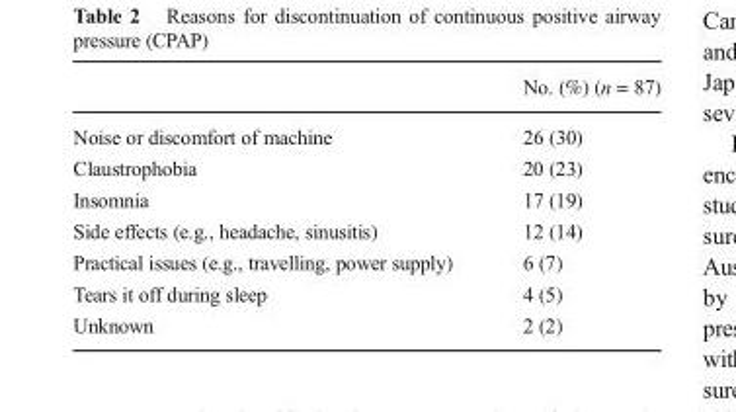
<table><thead><tr><td></td><td>No. (%) (n = 87)</td></tr></thead><tbody><tr><td>Noise or discomfort of machine</td><td>26 (30)</td></tr><tr><td>Claustrophobia</td><td>20 (23)</td></tr><tr><td>Insomnia</td><td>17 (19)</td></tr><tr><td>Side effects (e.g., headache, sinusitis)</td><td>12 (14)</td></tr><tr><td>Practical issues (e.g., travelling, power supply)</td><td>6 (7)</td></tr><tr><td>Tears it off during sleep</td><td>4 (5)</td></tr><tr><td>Unknown</td><td>2 (2)</td></tr></tbody></table>